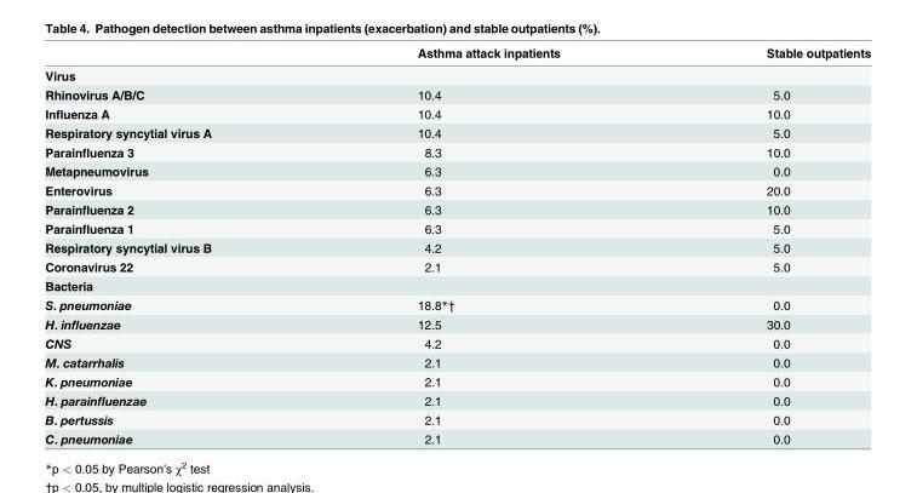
<table><thead><tr><td></td><td>Asthma attack inpatients</td><td>Stable outpatients</td></tr></thead><tbody><tr><td colspan="3">Virus</td></tr><tr><td>Rhinovirus A/B/C</td><td>10.4</td><td>5.0</td></tr><tr><td>Influenza A</td><td>10.4</td><td>10.0</td></tr><tr><td>Respiratory syncytial virus A</td><td>10.4</td><td>5.0</td></tr><tr><td>Parainfluenza 3</td><td>8.3</td><td>10.0</td></tr><tr><td>Metapneumovirus</td><td>6.3</td><td>0.0</td></tr><tr><td>Enterovirus</td><td>6.3</td><td>20.0</td></tr><tr><td>Parainfluenza 2</td><td>6.3</td><td>10.0</td></tr><tr><td>Parainfluenza 1</td><td>6.3</td><td>5.0</td></tr><tr><td>Respiratory syncytial virus B</td><td>4.2</td><td>5.0</td></tr><tr><td>Coronavirus 22</td><td>2.1</td><td>5.0</td></tr><tr><td colspan="3">Bacteria</td></tr><tr><td>S. pneumoniae</td><td>18.8*†</td><td>0.0</td></tr><tr><td>H. influenzae</td><td>12.5</td><td>30.0</td></tr><tr><td>CNS</td><td>4.2</td><td>0.0</td></tr><tr><td>M. catarrhalis</td><td>2.1</td><td>0.0</td></tr><tr><td>K. pneumoniae</td><td>2.1</td><td>0.0</td></tr><tr><td>H. parainfluenzae</td><td>2.1</td><td>0.0</td></tr><tr><td>B. pertussis</td><td>2.1</td><td>0.0</td></tr><tr><td>C. pneumoniae</td><td>2.1</td><td>0.0</td></tr></tbody></table>